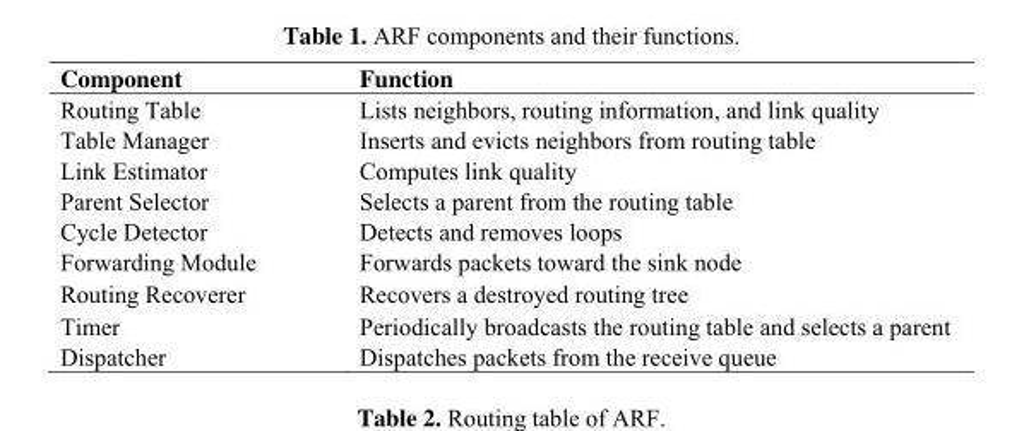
<table><thead><tr><td>Component</td><td>Function</td></tr></thead><tbody><tr><td>Routing Table</td><td>Lists neighbors, routing information, and link quality</td></tr><tr><td>Table Manager</td><td>Inserts and evicts neighbors from routing table</td></tr><tr><td>Link Estimator</td><td>Computes link quality</td></tr><tr><td>Parent Selector</td><td>Selects a parent from the routing table</td></tr><tr><td>Cycle Detector</td><td>Detects and removes loops</td></tr><tr><td>Forwarding Module</td><td>Forwards packets toward the sink node</td></tr><tr><td>Routing Recoverer</td><td>Recovers a destroyed routing tree</td></tr><tr><td>Timer</td><td>Periodically broadcasts the routing table and selects a parent</td></tr><tr><td>Dispatcher</td><td>Dispatches packets from the receive queue</td></tr></tbody></table>